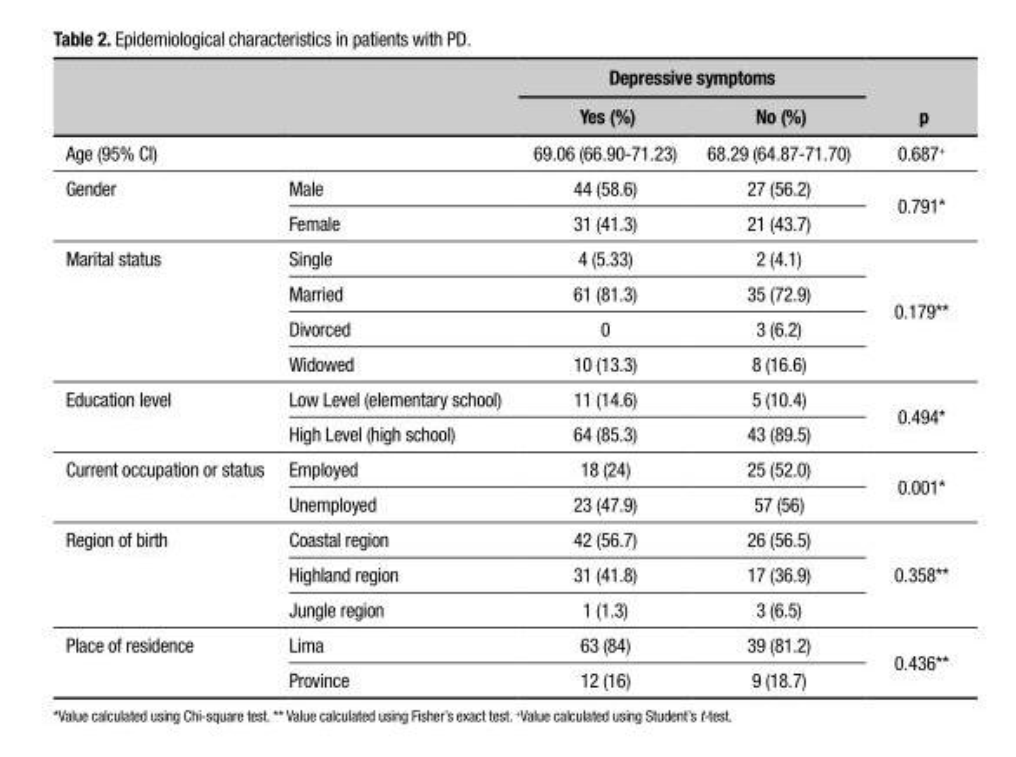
<table><thead><tr><td rowspan="2"></td><td rowspan="2"></td><td colspan="2">Depressive symptoms</td><td rowspan="2">p</td></tr><tr><td>Yes (%)</td><td>No (%)</td></tr></thead><tbody><tr><td>Age (95% CI)</td><td></td><td>69.06 (66.90-71.23)</td><td>68.29 (64.87-71.70)</td><td>0.687+</td></tr><tr><td rowspan="2">Gender</td><td>Male</td><td>44 (58.6)</td><td>27 (56.2)</td><td rowspan="2">0.791*</td></tr><tr><td>Female</td><td>31 (41.3)</td><td>21 (43.7)</td></tr><tr><td rowspan="4">Marital status</td><td>Single</td><td>4 (5.33)</td><td>2 (4.1)</td><td rowspan="4">0.179**</td></tr><tr><td>Married</td><td>61 (81.3)</td><td>35 (72.9)</td></tr><tr><td>Divorced</td><td>0</td><td>3 (6.2)</td></tr><tr><td>Widowed</td><td>10 (13.3)</td><td>8 (16.6)</td></tr><tr><td rowspan="2">Education level</td><td>Low Level (elementary school)</td><td>11 (14.6)</td><td>5 (10.4)</td><td rowspan="2">0.494*</td></tr><tr><td>High Level (high school)</td><td>64 (85.3)</td><td>43 (89.5)</td></tr><tr><td rowspan="2">Current occupation or status</td><td>Employed</td><td>18 (24)</td><td>25 (52.0)</td><td rowspan="2">0.001*</td></tr><tr><td>Unemployed</td><td>23 (47.9)</td><td>57 (56)</td></tr><tr><td rowspan="3">Region of birth</td><td>Coastal region</td><td>42 (56.7)</td><td>26 (56.5)</td><td rowspan="3">0.358**</td></tr><tr><td>Highland region</td><td>31 (41.8)</td><td>17 (36.9)</td></tr><tr><td>Jungle region</td><td>1 (1.3)</td><td>3 (6.5)</td></tr><tr><td rowspan="2">Place of residence</td><td>Lima</td><td>63 (84)</td><td>39 (81.2)</td><td rowspan="2">0.436**</td></tr><tr><td>Province</td><td>12 (16)</td><td>9 (18.7)</td></tr></tbody></table>